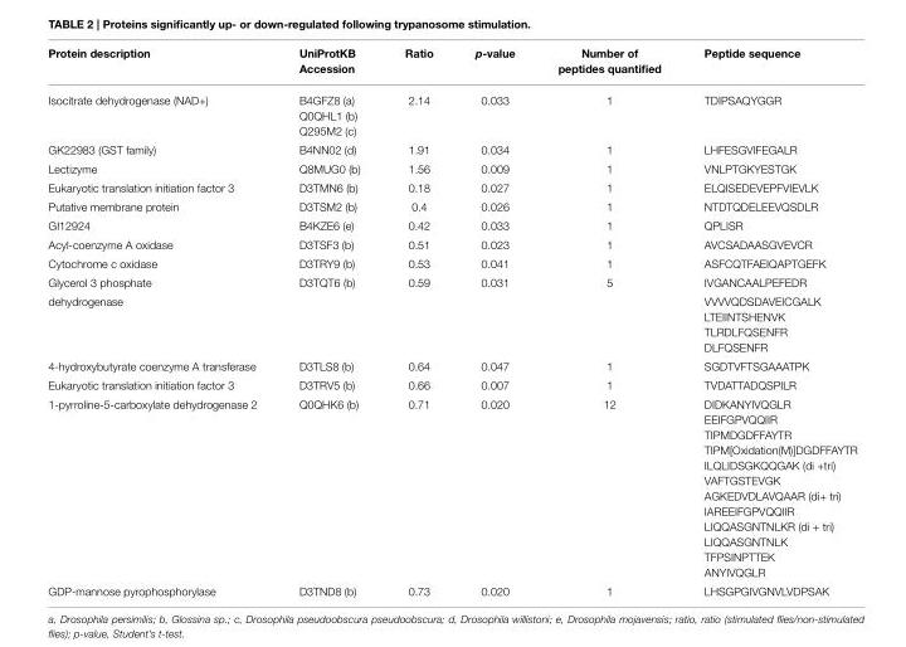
<table><thead><tr><td>Protein description</td><td>UniProtKB Accession</td><td>Ratio</td><td>p-value</td><td>Number of peptides quantified</td><td>Peptide sequence</td></tr></thead><tbody><tr><td>Isocitrate dehydrogenase (NAD+)</td><td>B4GFZ8 (a) Q0QHL1 (b) Q295M2 (c)</td><td>2.14</td><td>0.033</td><td>1</td><td>TDIPSAQYGGR</td></tr><tr><td>GK22983 (GST family)</td><td>B4NN02 (d)</td><td>1.91</td><td>0.034</td><td>1</td><td>LHFESGVIFEGALR</td></tr><tr><td>Lectizyme</td><td>Q8MUG0 (b)</td><td>1.56</td><td>0.009</td><td>1</td><td>VNLPTGKYESTGK</td></tr><tr><td>Eukaryotic translation initiation factor 3</td><td>D3TMN6 (b)</td><td>0.18</td><td>0.027</td><td>1</td><td>ELQISEDEVEPFVIEVLK</td></tr><tr><td>Putative membrane protein</td><td>D3TSM2 (b)</td><td>0.4</td><td>0.026</td><td>1</td><td>NTDTQDELEEVQSDLR</td></tr><tr><td>GI12924</td><td>B4KZE6 (e)</td><td>0.42</td><td>0.033</td><td>1</td><td>QPLISR</td></tr><tr><td>Acyl-coenzyme A oxidase</td><td>D3TSF3 (b)</td><td>0.51</td><td>0.023</td><td>1</td><td>AVCSADAASGVEVCR</td></tr><tr><td>Cytochrome c oxidase</td><td>D3TRY9 (b)</td><td>0.53</td><td>0.041</td><td>1</td><td>ASFCQTFAEIQAPTGEFK</td></tr><tr><td>Glycerol 3 phosphate</td><td>D3TQT6 (b)</td><td>0.59</td><td>0.031</td><td>5</td><td>IVGANCAALPEFEDR</td></tr><tr><td>dehydrogenase</td><td></td><td></td><td></td><td></td><td>VVVVQDSDAVEICGALK LTEIINTSHENVK TLRDLFQSENFR DLFQSENFR</td></tr><tr><td>4-hydroxybutyrate coenzyme A transferase</td><td>D3TLS8 (b)</td><td>0.64</td><td>0.047</td><td>1</td><td>SGDTVFTSGAAATPK</td></tr><tr><td>Eukaryotic translation initiation factor 3</td><td>D3TRV5 (b)</td><td>0.66</td><td>0.007</td><td>1</td><td>TVDATTADQSPILR</td></tr><tr><td>1-pyrroline-5-carboxylate dehydrogenase 2</td><td>Q0QHK6 (b)</td><td>0.71</td><td>0.020</td><td>12</td><td>DIDKANYIVQGLR EEIFGPVQQIIR TIPMDGDFFAYTR TIPM[Oxidation(M)]DGDFFAYTR ILQLIDSGKQQGAK (di +tri) VAFTGSTEVGK AGKEDVDLAVQAAR (di+ tri) IAREEIFGPVQQIIR LIQQASGNTNLKR (di + tri) LIQQASGNTNLK TFPSINPTTEK ANYIVQGLR</td></tr><tr><td>GDP-mannose pyrophosphorylase</td><td>D3TND8 (b)</td><td>0.73</td><td>0.020</td><td>1</td><td>LHSGPGIVGNVLVDPSAK</td></tr></tbody></table>